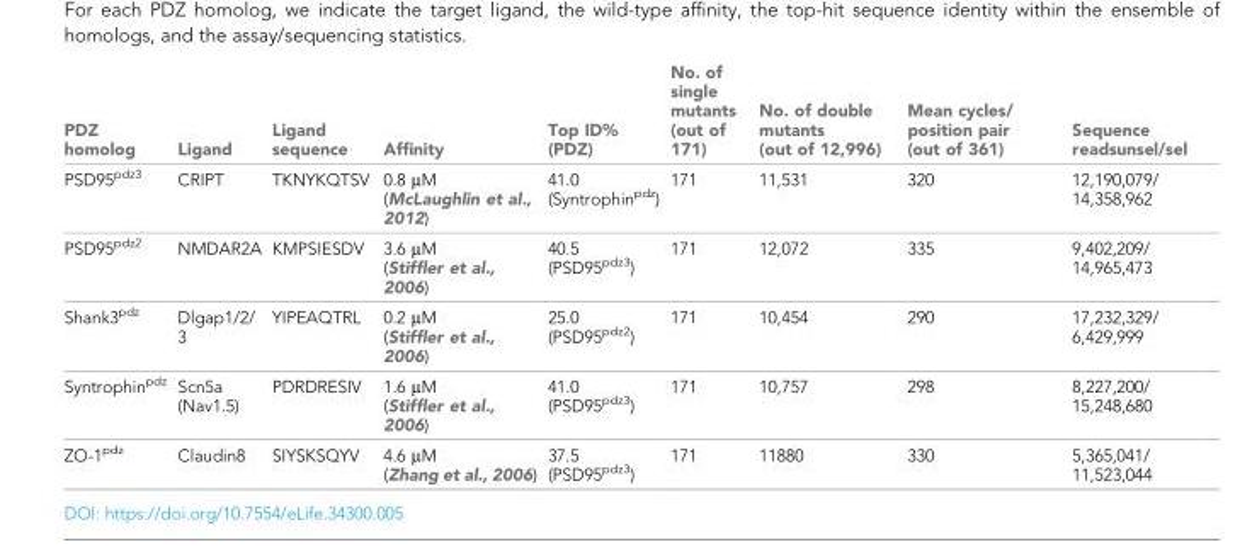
<table><thead><tr><td>PDZ homolog</td><td>Ligand</td><td>Ligand sequence</td><td>Affinity</td><td>Top ID% (PDZ)</td><td>No. of single mutants (out of 171)</td><td>No. of double mutants (out of 12,996)</td><td>Mean cycles/ position pair (out of 361)</td><td>Sequence readsunsel/sel</td></tr></thead><tbody><tr><td>PSD95<sup>pdz3</sup></td><td>CRIPT</td><td>TKNYKQTSV</td><td>0.8 μM (McLaughlin et al., 2012)</td><td>41.0 (Syntrophin<sup>pdz</sup>)</td><td>171</td><td>11,531</td><td>320</td><td>12,190,079/ 14,358,962</td></tr><tr><td>PSD95<sup>pdz2</sup></td><td>NMDAR2A</td><td>KMPSIESDV</td><td>3.6 μM (Stiffler et al., 2006)</td><td>40.5 (PSD95<sup>pdz3</sup>)</td><td>171</td><td>12,072</td><td>335</td><td>9,402,209/ 14,965,473</td></tr><tr><td>Shank3<sup>pdz</sup></td><td>Dlgap1/2/ 3</td><td>YIPEAQTRL</td><td>0.2 μM (Stiffler et al., 2006)</td><td>25.0 (PSD95<sup>pdz2</sup>)</td><td>171</td><td>10,454</td><td>290</td><td>17,232,329/ 6,429,999</td></tr><tr><td>Syntrophin<sup>pdz</sup></td><td>Scn5a (Nav1.5)</td><td>PDRDRESIV</td><td>1.6 μM (Stiffler et al., 2006)</td><td>41.0 (PSD95<sup>pdz3</sup>)</td><td>171</td><td>10,757</td><td>298</td><td>8,227,200/ 15,248,680</td></tr><tr><td>ZO-1<sup>pdz</sup></td><td>Claudin8</td><td>SIYSKSQYV</td><td>4.6 μM (Zhang et al., 2006)</td><td>37.5 (PSD95<sup>pdz3</sup>)</td><td>171</td><td>11880</td><td>330</td><td>5,365,041/ 11,523,044</td></tr></tbody></table>